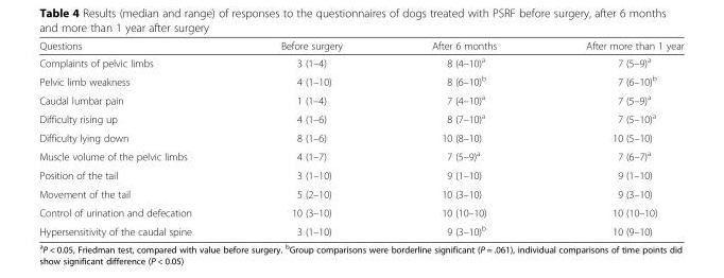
<table><thead><tr><td>Questions</td><td>Before surgery</td><td>After 6 months</td><td>After more than 1 year</td></tr></thead><tbody><tr><td>Complaints of pelvic limbs</td><td>3 (1–4)</td><td>8 (4–10)<sup>a</sup></td><td>7 (5–9)<sup>a</sup></td></tr><tr><td>Pelvic limb weakness</td><td>4 (1–10)</td><td>8 (6–10)<sup>b</sup></td><td>7 (6–10)<sup>b</sup></td></tr><tr><td>Caudal lumbar pain</td><td>1 (1–4)</td><td>7 (4–10)<sup>a</sup></td><td>7 (5–9)<sup>a</sup></td></tr><tr><td>Difficulty rising up</td><td>4 (1–6)</td><td>8 (7–10)<sup>a</sup></td><td>7 (5–10)<sup>a</sup></td></tr><tr><td>Difficulty lying down</td><td>8 (1–6)</td><td>10 (8–10)</td><td>10 (5–10)</td></tr><tr><td>Muscle volume of the pelvic limbs</td><td>4 (1–7)</td><td>7 (5–9)<sup>a</sup></td><td>7 (6–7)<sup>a</sup></td></tr><tr><td>Position of the tail</td><td>3 (1–10)</td><td>9 (1–10)</td><td>9 (1–10)</td></tr><tr><td>Movement of the tail</td><td>5 (2–10)</td><td>10 (3–10)</td><td>9 (3–10)</td></tr><tr><td>Control of urination and defecation</td><td>10 (3–10)</td><td>10 (10–10)</td><td>10 (10–10)</td></tr><tr><td>Hypersensitivity of the caudal spine</td><td>3 (1–10)</td><td>9 (3–10)<sup>b</sup></td><td>10 (9–10)</td></tr></tbody></table>